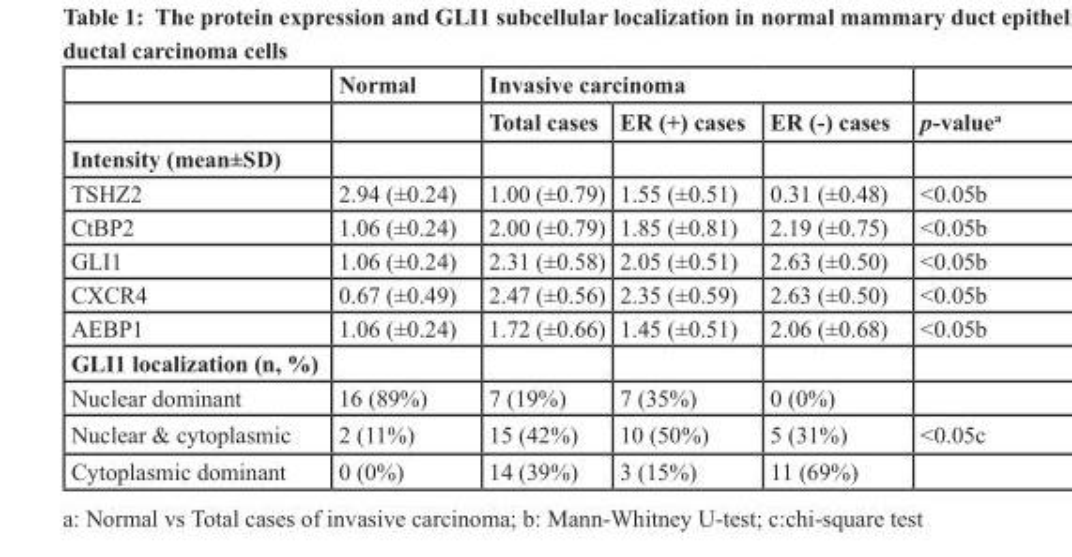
<table><thead><tr><td rowspan="2"></td><td rowspan="2">Normal</td><td colspan="3">Invasive carcinoma</td><td rowspan="2">p-value<sup>a</sup></td></tr><tr><td>Total cases</td><td>ER (+) cases</td><td>ER (-) cases</td></tr></thead><tbody><tr><td colspan="6">Intensity (mean±SD)</td></tr><tr><td>TSHZ2</td><td>2.94 (±0.24)</td><td>1.00 (±0.79)</td><td>1.55 (±0.51)</td><td>0.31 (±0.48)</td><td>&lt;0.05<sup>b</sup></td></tr><tr><td>CtBP2</td><td>1.06 (±0.24)</td><td>2.00 (±0.79)</td><td>1.85 (±0.81)</td><td>2.19 (±0.75)</td><td>&lt;0.05<sup>b</sup></td></tr><tr><td>GLI1</td><td>1.06 (±0.24)</td><td>2.31 (±0.58)</td><td>2.05 (±0.51)</td><td>2.63 (±0.50)</td><td>&lt;0.05<sup>b</sup></td></tr><tr><td>CXCR4</td><td>0.67 (±0.49)</td><td>2.47 (±0.56)</td><td>2.35 (±0.59)</td><td>2.63 (±0.50)</td><td>&lt;0.05<sup>b</sup></td></tr><tr><td>AEBP1</td><td>1.06 (±0.24)</td><td>1.72 (±0.66)</td><td>1.45 (±0.51)</td><td>2.06 (±0.68)</td><td>&lt;0.05<sup>b</sup></td></tr><tr><td colspan="6">GLI1 localization (n, %)</td></tr><tr><td>Nuclear dominant</td><td>16 (89%)</td><td>7 (19%)</td><td>7 (35%)</td><td>0 (0%)</td><td></td></tr><tr><td>Nuclear &amp; cytoplasmic</td><td>2 (11%)</td><td>15 (42%)</td><td>10 (50%)</td><td>5 (31%)</td><td>&lt;0.05<sup>c</sup></td></tr><tr><td>Cytoplasmic dominant</td><td>0 (0%)</td><td>14 (39%)</td><td>3 (15%)</td><td>11 (69%)</td><td></td></tr></tbody></table>